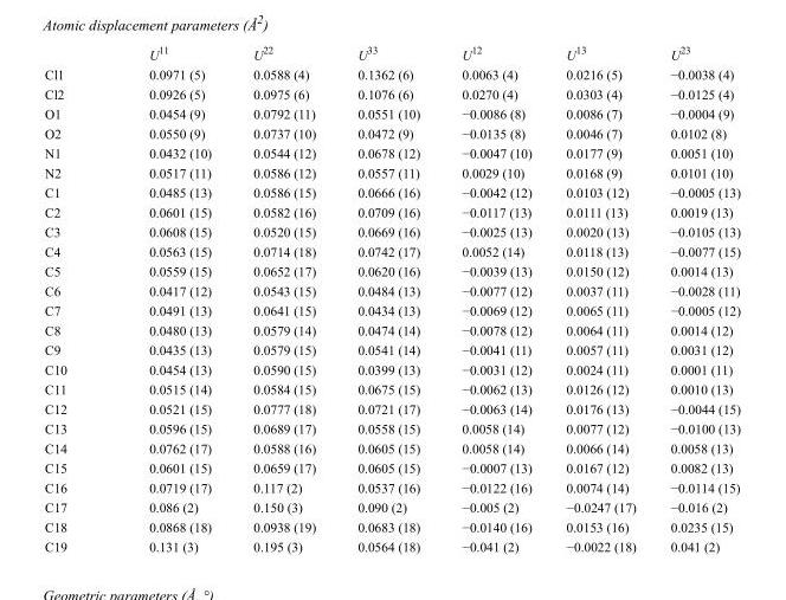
<table><thead><tr><td></td><td>U<sup>11</sup></td><td>U<sup>22</sup></td><td>U<sup>33</sup></td><td>U<sup>12</sup></td><td>U<sup>13</sup></td><td>U<sup>23</sup></td></tr></thead><tbody><tr><td>Cl1</td><td>0.0971 (5)</td><td>0.0588 (4)</td><td>0.1362 (6)</td><td>0.0063 (4)</td><td>0.0216 (5)</td><td>−0.0038 (4)</td></tr><tr><td>Cl2</td><td>0.0926 (5)</td><td>0.0975 (6)</td><td>0.1076 (6)</td><td>0.0270 (4)</td><td>0.0303 (4)</td><td>−0.0125 (4)</td></tr><tr><td>O1</td><td>0.0454 (9)</td><td>0.0792 (11)</td><td>0.0551 (10)</td><td>−0.0086 (8)</td><td>0.0086 (7)</td><td>−0.0004 (9)</td></tr><tr><td>O2</td><td>0.0550 (9)</td><td>0.0737 (10)</td><td>0.0472 (9)</td><td>−0.0135 (8)</td><td>0.0046 (7)</td><td>0.0102 (8)</td></tr><tr><td>N1</td><td>0.0432 (10)</td><td>0.0544 (12)</td><td>0.0678 (12)</td><td>−0.0047 (10)</td><td>0.0177 (9)</td><td>0.0051 (10)</td></tr><tr><td>N2</td><td>0.0517 (11)</td><td>0.0586 (12)</td><td>0.0557 (11)</td><td>0.0029 (10)</td><td>0.0168 (9)</td><td>0.0101 (10)</td></tr><tr><td>C1</td><td>0.0485 (13)</td><td>0.0586 (15)</td><td>0.0666 (16)</td><td>−0.0042 (12)</td><td>0.0103 (12)</td><td>−0.0005 (13)</td></tr><tr><td>C2</td><td>0.0601 (15)</td><td>0.0582 (16)</td><td>0.0709 (16)</td><td>−0.0117 (13)</td><td>0.0111 (13)</td><td>0.0019 (13)</td></tr><tr><td>C3</td><td>0.0608 (15)</td><td>0.0520 (15)</td><td>0.0669 (16)</td><td>−0.0025 (13)</td><td>0.0020 (13)</td><td>−0.0105 (13)</td></tr><tr><td>C4</td><td>0.0563 (15)</td><td>0.0714 (18)</td><td>0.0742 (17)</td><td>0.0052 (14)</td><td>0.0118 (13)</td><td>−0.0077 (15)</td></tr><tr><td>C5</td><td>0.0559 (15)</td><td>0.0652 (17)</td><td>0.0620 (16)</td><td>−0.0039 (13)</td><td>0.0150 (12)</td><td>0.0014 (13)</td></tr><tr><td>C6</td><td>0.0417 (12)</td><td>0.0543 (15)</td><td>0.0484 (13)</td><td>−0.0077 (12)</td><td>0.0037 (11)</td><td>−0.0028 (11)</td></tr><tr><td>C7</td><td>0.0491 (13)</td><td>0.0641 (15)</td><td>0.0434 (13)</td><td>−0.0069 (12)</td><td>0.0065 (11)</td><td>−0.0005 (12)</td></tr><tr><td>C8</td><td>0.0480 (13)</td><td>0.0579 (14)</td><td>0.0474 (14)</td><td>−0.0078 (12)</td><td>0.0064 (11)</td><td>0.0014 (12)</td></tr><tr><td>C9</td><td>0.0435 (13)</td><td>0.0579 (15)</td><td>0.0541 (14)</td><td>−0.0041 (11)</td><td>0.0057 (11)</td><td>0.0031 (12)</td></tr><tr><td>C10</td><td>0.0454 (13)</td><td>0.0590 (15)</td><td>0.0399 (13)</td><td>−0.0031 (12)</td><td>0.0024 (11)</td><td>0.0001 (11)</td></tr><tr><td>C11</td><td>0.0515 (14)</td><td>0.0584 (15)</td><td>0.0675 (15)</td><td>−0.0062 (13)</td><td>0.0126 (12)</td><td>0.0010 (13)</td></tr><tr><td>C12</td><td>0.0521 (15)</td><td>0.0777 (18)</td><td>0.0721 (17)</td><td>−0.0063 (14)</td><td>0.0176 (13)</td><td>−0.0044 (15)</td></tr><tr><td>C13</td><td>0.0596 (15)</td><td>0.0689 (17)</td><td>0.0558 (15)</td><td>0.0058 (14)</td><td>0.0077 (12)</td><td>−0.0100 (13)</td></tr><tr><td>C14</td><td>0.0762 (17)</td><td>0.0588 (16)</td><td>0.0605 (15)</td><td>0.0058 (14)</td><td>0.0066 (14)</td><td>0.0058 (13)</td></tr><tr><td>C15</td><td>0.0601 (15)</td><td>0.0659 (17)</td><td>0.0605 (15)</td><td>−0.0007 (13)</td><td>0.0167 (12)</td><td>0.0082 (13)</td></tr><tr><td>C16</td><td>0.0719 (17)</td><td>0.117 (2)</td><td>0.0537 (16)</td><td>−0.0122 (16)</td><td>0.0074 (14)</td><td>−0.0114 (15)</td></tr><tr><td>C17</td><td>0.086 (2)</td><td>0.150 (3)</td><td>0.090 (2)</td><td>−0.005 (2)</td><td>−0.0247 (17)</td><td>−0.016 (2)</td></tr><tr><td>C18</td><td>0.0868 (18)</td><td>0.0938 (19)</td><td>0.0683 (18)</td><td>−0.0140 (16)</td><td>0.0153 (16)</td><td>0.0235 (15)</td></tr><tr><td>C19</td><td>0.131 (3)</td><td>0.195 (3)</td><td>0.0564 (18)</td><td>−0.041 (2)</td><td>−0.0022 (18)</td><td>0.041 (2)</td></tr></tbody></table>